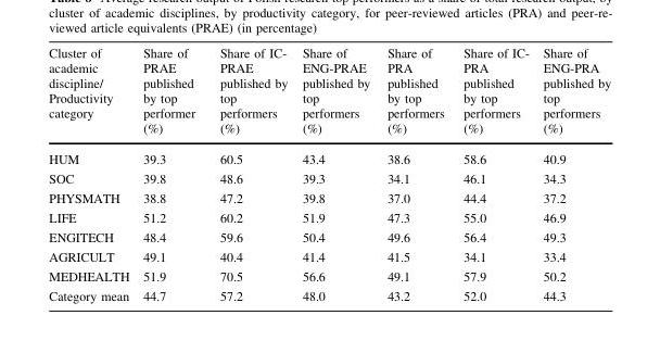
<table><thead><tr><td>Cluster of academic discipline/ Productivity category</td><td>Share of PRAE published by top performer (%)</td><td>Share of IC- PRAE published by top performers (%)</td><td>Share of ENG-PRAE published by top performers (%)</td><td>Share of PRA published by top performers (%)</td><td>Share of IC- PRA published by top performers (%)</td><td>Share of ENG-PRA published by top performers (%)</td></tr></thead><tbody><tr><td>HUM</td><td>39.3</td><td>60.5</td><td>43.4</td><td>38.6</td><td>58.6</td><td>40.9</td></tr><tr><td>SOC</td><td>39.8</td><td>48.6</td><td>39.3</td><td>34.1</td><td>46.1</td><td>34.3</td></tr><tr><td>PHYSMATH</td><td>38.8</td><td>47.2</td><td>39.8</td><td>37.0</td><td>44.4</td><td>37.2</td></tr><tr><td>LIFE</td><td>51.2</td><td>60.2</td><td>51.9</td><td>47.3</td><td>55.0</td><td>46.9</td></tr><tr><td>ENGITECH</td><td>48.4</td><td>59.6</td><td>50.4</td><td>49.6</td><td>56.4</td><td>49.3</td></tr><tr><td>AGRICULT</td><td>49.1</td><td>40.4</td><td>41.4</td><td>41.5</td><td>34.1</td><td>33.4</td></tr><tr><td>MEDHEALTH</td><td>51.9</td><td>70.5</td><td>56.6</td><td>49.1</td><td>57.9</td><td>50.2</td></tr><tr><td>Category mean</td><td>44.7</td><td>57.2</td><td>48.0</td><td>43.2</td><td>52.0</td><td>44.3</td></tr></tbody></table>